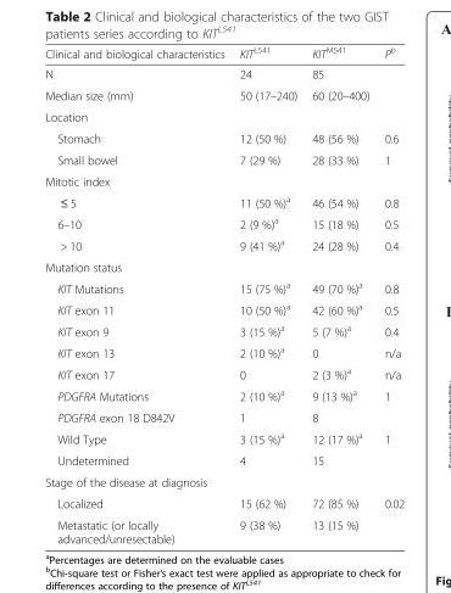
<table><thead><tr><td>Clinical and biological characteristics</td><td>KIT<sup>L541</sup></td><td>KIT<sup>M541</sup></td><td>P<sup>b</sup></td></tr></thead><tbody><tr><td>N</td><td>24</td><td>85</td><td></td></tr><tr><td>Median size (mm)</td><td>50 (17–240)</td><td>60 (20–400)</td><td></td></tr><tr><td colspan="4">Location</td></tr><tr><td>Stomach</td><td>12 (50 %)</td><td>48 (56 %)</td><td>0.6</td></tr><tr><td>Small bowel</td><td>7 (29 %)</td><td>28 (33 %)</td><td>1</td></tr><tr><td colspan="4">Mitotic index</td></tr><tr><td>≤ 5</td><td>11 (50 %)<sup>a</sup></td><td>46 (54 %)</td><td>0.8</td></tr><tr><td>6–10</td><td>2 (9 %)<sup>a</sup></td><td>15 (18 %)</td><td>0.5</td></tr><tr><td>&gt; 10</td><td>9 (41 %)<sup>a</sup></td><td>24 (28 %)</td><td>0.4</td></tr><tr><td colspan="4">Mutation status</td></tr><tr><td>KIT Mutations</td><td>15 (75 %)<sup>a</sup></td><td>49 (70 %)<sup>a</sup></td><td>0.8</td></tr><tr><td>KIT exon 11</td><td>10 (50 %)<sup>a</sup></td><td>42 (60 %)<sup>a</sup></td><td>0.5</td></tr><tr><td>KIT exon 9</td><td>3 (15 %)<sup>a</sup></td><td>5 (7 %)<sup>a</sup></td><td>0.4</td></tr><tr><td>KIT exon 13</td><td>2 (10 %)<sup>a</sup></td><td>0</td><td>n/a</td></tr><tr><td>KIT exon 17</td><td>0</td><td>2 (3 %)<sup>a</sup></td><td>n/a</td></tr><tr><td>PDGFRA Mutations</td><td>2 (10 %)<sup>a</sup></td><td>9 (13 %)<sup>a</sup></td><td>1</td></tr><tr><td>PDGFRA exon 18 D842V</td><td>1</td><td>8</td><td></td></tr><tr><td>Wild Type</td><td>3 (15 %)<sup>a</sup></td><td>12 (17 %)<sup>a</sup></td><td>1</td></tr><tr><td>Undetermined</td><td>4</td><td>15</td><td></td></tr><tr><td colspan="4">Stage of the disease at diagnosis</td></tr><tr><td>Localized</td><td>15 (62 %)</td><td>72 (85 %)</td><td rowspan="2">0.02</td></tr><tr><td>Metastatic (or locally advanced/unresectable)</td><td>9 (38 %)</td><td>13 (15 %)</td></tr></tbody></table>